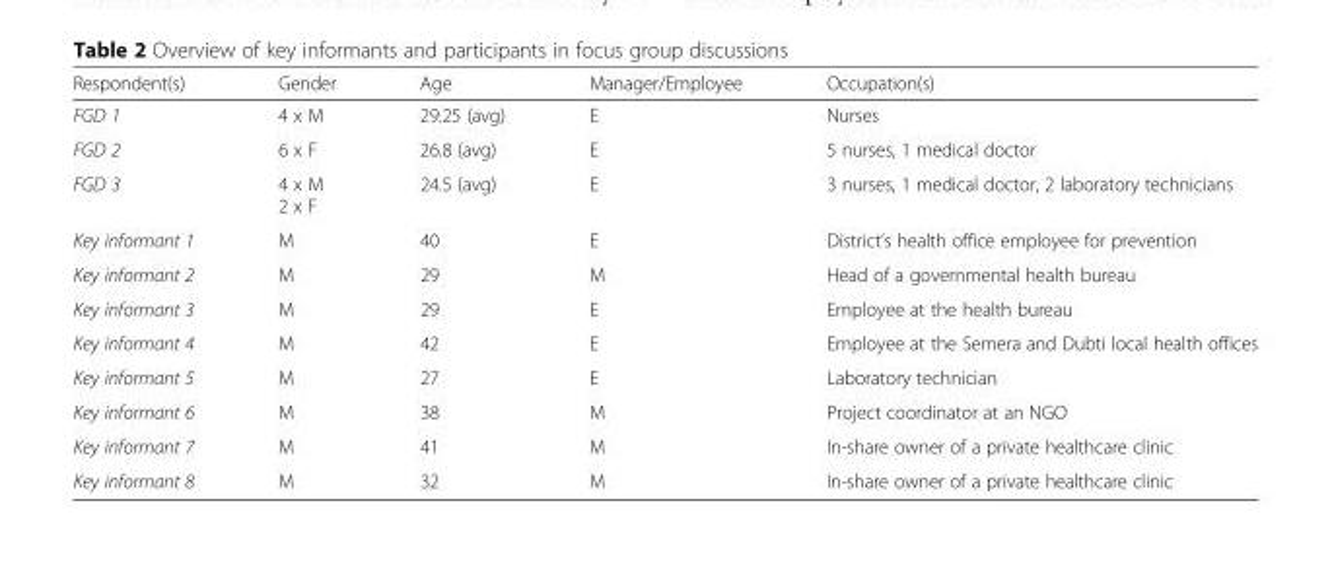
<table><thead><tr><td>Respondent(s)</td><td>Gender</td><td>Age</td><td>Manager/Employee</td><td>Occupation(s)</td></tr></thead><tbody><tr><td>FGD 1</td><td>4 x M</td><td>29.25 (avg)</td><td>E</td><td>Nurses</td></tr><tr><td>FGD 2</td><td>6 x F</td><td>26.8 (avg)</td><td>E</td><td>5 nurses, 1 medical doctor</td></tr><tr><td>FGD 3</td><td>4 x M 2 x F</td><td>24.5 (avg)</td><td>E</td><td>3 nurses, 1 medical doctor, 2 laboratory technicians</td></tr><tr><td>Key informant 1</td><td>M</td><td>40</td><td>E</td><td>District’s health office employee for prevention</td></tr><tr><td>Key informant 2</td><td>M</td><td>29</td><td>M</td><td>Head of a governmental health bureau</td></tr><tr><td>Key informant 3</td><td>M</td><td>29</td><td>E</td><td>Employee at the health bureau</td></tr><tr><td>Key informant 4</td><td>M</td><td>42</td><td>E</td><td>Employee at the Semera and Dubti local health offices</td></tr><tr><td>Key informant 5</td><td>M</td><td>27</td><td>E</td><td>Laboratory technician</td></tr><tr><td>Key informant 6</td><td>M</td><td>38</td><td>M</td><td>Project coordinator at an NGO</td></tr><tr><td>Key informant 7</td><td>M</td><td>41</td><td>M</td><td>In-share owner of a private healthcare clinic</td></tr><tr><td>Key informant 8</td><td>M</td><td>32</td><td>M</td><td>In-share owner of a private healthcare clinic</td></tr></tbody></table>